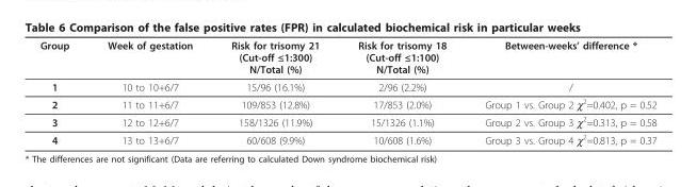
<table><thead><tr><td>Group</td><td>Week of gestation</td><td>Risk for trisomy 21 (Cut-off ≤1:300) N/Total (%)</td><td>Risk for trisomy 18 (Cut-off ≤1:100) N/Total (%)</td><td>Between-weeks’ difference *</td></tr></thead><tbody><tr><td>1</td><td>10 to 10+6/7</td><td>15/96 (16.1%)</td><td>2/96 (2.2%)</td><td>/</td></tr><tr><td>2</td><td>11 to 11+6/7</td><td>109/853 (12.8%)</td><td>17/853 (2.0%)</td><td>Group 1 vs. Group 2 χ<sup>2</sup>=0.402, p = 0.52</td></tr><tr><td>3</td><td>12 to 12+6/7</td><td>158/1326 (11.9%)</td><td>15/1326 (1.1%)</td><td>Group 2 vs. Group 3 χ<sup>2</sup>=0.313, p = 0.58</td></tr><tr><td>4</td><td>13 to 13+6/7</td><td>60/608 (9.9%)</td><td>10/608 (1.6%)</td><td>Group 3 vs. Group 4 χ<sup>2</sup>=0.813, p = 0.37</td></tr></tbody></table>